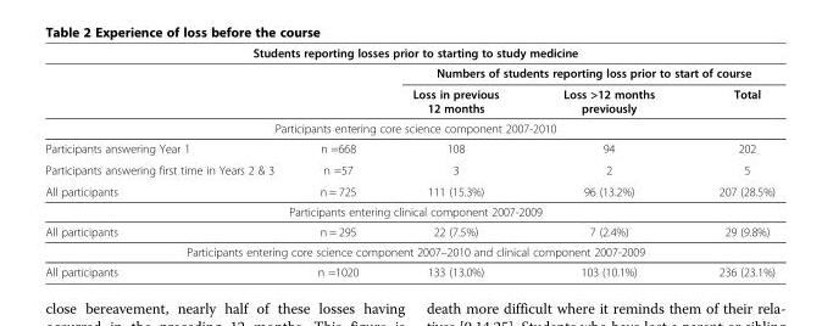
<table><tbody><tr><td colspan="5">Students reporting losses prior to starting to study medicine</td></tr><tr><td></td><td></td><td colspan="3">Numbers of students reporting loss prior to start of course</td></tr><tr><td></td><td></td><td>Loss in previous 12 months</td><td>Loss &gt;12 months previously</td><td>Total</td></tr><tr><td colspan="5">Participants entering core science component 2007-2010</td></tr><tr><td>Participants answering Year 1</td><td>n =668</td><td>108</td><td>94</td><td>202</td></tr><tr><td>Participants answering first time in Years 2 &amp; 3</td><td>n =57</td><td>3</td><td>2</td><td>5</td></tr><tr><td>All participants</td><td>n = 725</td><td>111 (15.3%)</td><td>96 (13.2%)</td><td>207 (28.5%)</td></tr><tr><td colspan="5">Participants entering clinical component 2007-2009</td></tr><tr><td>All participants</td><td>n = 295</td><td>22 (7.5%)</td><td>7 (2.4%)</td><td>29 (9.8%)</td></tr><tr><td colspan="5">Participants entering core science component 2007–2010 and clinical component 2007-2009</td></tr><tr><td>All participants</td><td>n =1020</td><td>133 (13.0%)</td><td>103 (10.1%)</td><td>236 (23.1%)</td></tr></tbody></table>